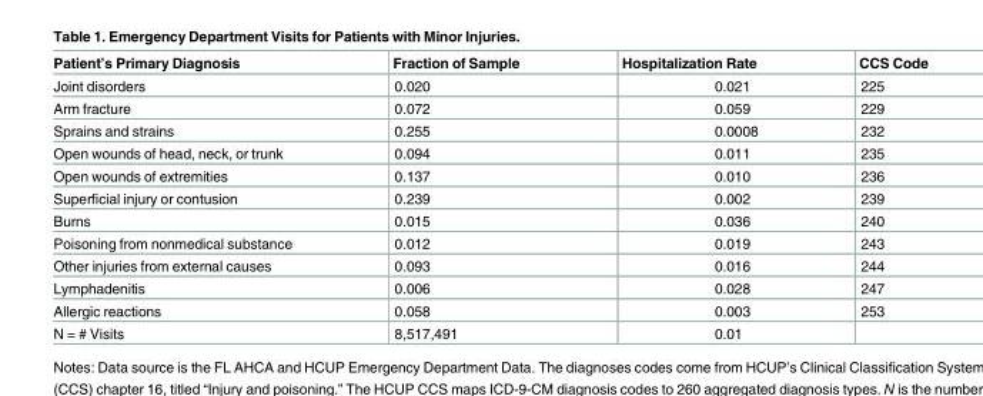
<table><thead><tr><td>Patient’s Primary Diagnosis</td><td>Fraction of Sample</td><td>Hospitalization Rate</td><td>CCS Code</td></tr></thead><tbody><tr><td>Joint disorders</td><td>0.020</td><td>0.021</td><td>225</td></tr><tr><td>Arm fracture</td><td>0.072</td><td>0.059</td><td>229</td></tr><tr><td>Sprains and strains</td><td>0.255</td><td>0.0008</td><td>232</td></tr><tr><td>Open wounds of head, neck, or trunk</td><td>0.094</td><td>0.011</td><td>235</td></tr><tr><td>Open wounds of extremities</td><td>0.137</td><td>0.010</td><td>236</td></tr><tr><td>Superficial injury or contusion</td><td>0.239</td><td>0.002</td><td>239</td></tr><tr><td>Burns</td><td>0.015</td><td>0.036</td><td>240</td></tr><tr><td>Poisoning from nonmedical substance</td><td>0.012</td><td>0.019</td><td>243</td></tr><tr><td>Other injuries from external causes</td><td>0.093</td><td>0.016</td><td>244</td></tr><tr><td>Lymphadenitis</td><td>0.006</td><td>0.028</td><td>247</td></tr><tr><td>Allergic reactions</td><td>0.058</td><td>0.003</td><td>253</td></tr><tr><td>N = # Visits</td><td>8,517,491</td><td>0.01</td><td></td></tr></tbody></table>